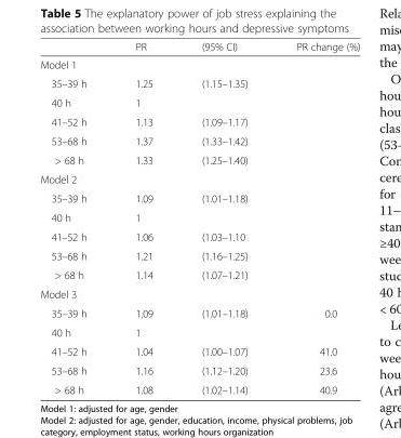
<table><thead><tr><td></td><td>PR</td><td>(95% CI)</td><td>PR change (%)</td></tr></thead><tbody><tr><td colspan="4">Model 1</td></tr><tr><td>35–39 h</td><td>1.25</td><td>(1.15–1.35)</td><td></td></tr><tr><td>40 h</td><td>1</td><td></td><td></td></tr><tr><td>41–52 h</td><td>1.13</td><td>(1.09–1.17)</td><td></td></tr><tr><td>53–68 h</td><td>1.37</td><td>(1.33–1.42)</td><td></td></tr><tr><td>&gt; 68 h</td><td>1.33</td><td>(1.25–1.40)</td><td></td></tr><tr><td colspan="4">Model 2</td></tr><tr><td>35–39 h</td><td>1.09</td><td>(1.01–1.18)</td><td></td></tr><tr><td>40 h</td><td>1</td><td></td><td></td></tr><tr><td>41–52 h</td><td>1.06</td><td>(1.03–1.10</td><td></td></tr><tr><td>53–68 h</td><td>1.21</td><td>(1.16–1.25)</td><td></td></tr><tr><td>&gt; 68 h</td><td>1.14</td><td>(1.07–1.21)</td><td></td></tr><tr><td colspan="4">Model 3</td></tr><tr><td>35–39 h</td><td>1.09</td><td>(1.01–1.18)</td><td>0.0</td></tr><tr><td>40 h</td><td>1</td><td></td><td></td></tr><tr><td>41–52 h</td><td>1.04</td><td>(1.00–1.07)</td><td>41.0</td></tr><tr><td>53–68 h</td><td>1.16</td><td>(1.12–1.20)</td><td>23.6</td></tr><tr><td>&gt; 68 h</td><td>1.08</td><td>(1.02–1.14)</td><td>40.9</td></tr></tbody></table>